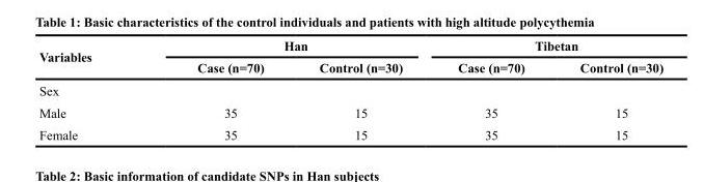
<table><thead><tr><td rowspan="2">Variables</td><td colspan="2">Han</td><td colspan="2">Tibetan</td></tr><tr><td>Case (n=70)</td><td>Control (n=30)</td><td>Case (n=70)</td><td>Control (n=30)</td></tr></thead><tbody><tr><td colspan="5">Sex</td></tr><tr><td>Male</td><td>35</td><td>15</td><td>35</td><td>15</td></tr><tr><td>Female</td><td>35</td><td>15</td><td>35</td><td>15</td></tr></tbody></table>